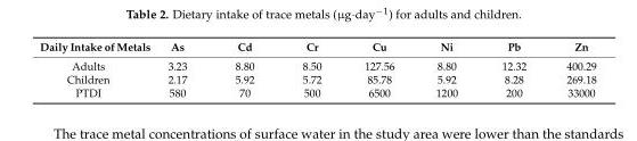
<table><thead><tr><td>Daily Intake of Metals</td><td>As</td><td>Cd</td><td>Cr</td><td>Cu</td><td>Ni</td><td>Pb</td><td>Zn</td></tr></thead><tbody><tr><td>Adults</td><td>3.23</td><td>8.80</td><td>8.50</td><td>127.56</td><td>8.80</td><td>12.32</td><td>400.29</td></tr><tr><td>Children</td><td>2.17</td><td>5.92</td><td>5.72</td><td>85.78</td><td>5.92</td><td>8.28</td><td>269.18</td></tr><tr><td>PTDI</td><td>580</td><td>70</td><td>500</td><td>6500</td><td>1200</td><td>200</td><td>33000</td></tr></tbody></table>